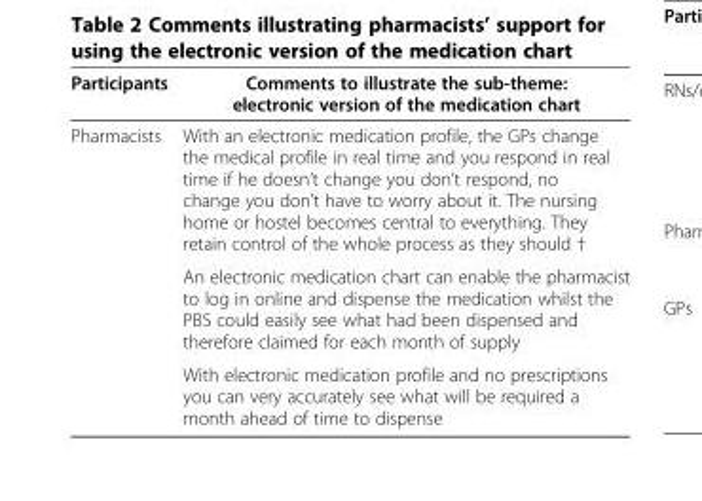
<table><thead><tr><td>Participants</td><td>Comments to illustrate the sub-theme: electronic version of the medication chart</td></tr></thead><tbody><tr><td rowspan="3">Pharmacists</td><td>With an electronic medication profile, the GPs change the medical profile in real time and you respond in real time if he doesn’t change you don’t respond, no change you don’t have to worry about it. The nursing home or hostel becomes central to everything. They retain control of the whole process as they should †</td></tr><tr><td>An electronic medication chart can enable the pharmacist to log in online and dispense the medication whilst the PBS could easily see what had been dispensed and therefore claimed for each month of supply</td></tr><tr><td>With electronic medication profile and no prescriptions you can very accurately see what will be required a month ahead of time to dispense</td></tr></tbody></table>